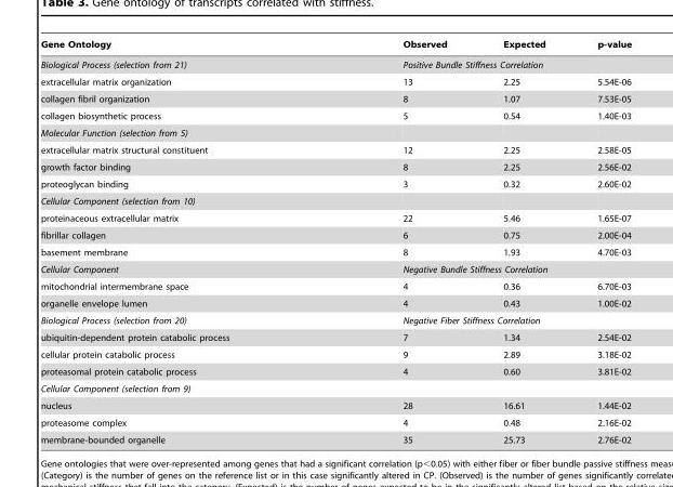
<table><thead><tr><td>Gene Ontology</td><td>Observed</td><td>Expected</td><td>p-value</td></tr></thead><tbody><tr><td>Biological Process (selection from 21)</td><td colspan="3">Positive Bundle Stiffness Correlation</td></tr><tr><td>extracellular matrix organization</td><td>13</td><td>2.25</td><td>5.54E-06</td></tr><tr><td>collagen fibril organization</td><td>8</td><td>1.07</td><td>7.53E-05</td></tr><tr><td>collagen biosynthetic process</td><td>5</td><td>0.54</td><td>1.40E-03</td></tr><tr><td colspan="4">Molecular Function (selection from 5)</td></tr><tr><td>extracellular matrix structural constituent</td><td>12</td><td>2.25</td><td>2.58E-05</td></tr><tr><td>growth factor binding</td><td>8</td><td>2.25</td><td>2.56E-02</td></tr><tr><td>proteoglycan binding</td><td>3</td><td>0.32</td><td>2.60E-02</td></tr><tr><td colspan="4">Cellular Component (selection from 10)</td></tr><tr><td>proteinaceous extracellular matrix</td><td>22</td><td>5.46</td><td>1.65E-07</td></tr><tr><td>fibrillar collagen</td><td>6</td><td>0.75</td><td>2.00E-04</td></tr><tr><td>basement membrane</td><td>8</td><td>1.93</td><td>4.70E-03</td></tr><tr><td>Cellular Component</td><td colspan="3">Negative Bundle Stiffness Correlation</td></tr><tr><td>mitochondrial intermembrane space</td><td>4</td><td>0.36</td><td>6.70E-03</td></tr><tr><td>organelle envelope lumen</td><td>4</td><td>0.43</td><td>1.00E-02</td></tr><tr><td>Biological Process (selection from 20)</td><td colspan="3">Negative Fiber Stiffness Correlation</td></tr><tr><td>ubiquitin-dependent protein catabolic process</td><td>7</td><td>1.34</td><td>2.54E-02</td></tr><tr><td>cellular protein catabolic process</td><td>9</td><td>2.89</td><td>3.18E-02</td></tr><tr><td>proteasomal protein catabolic process</td><td>4</td><td>0.60</td><td>3.81E-02</td></tr><tr><td colspan="4">Cellular Component (selection from 9)</td></tr><tr><td>nucleus</td><td>28</td><td>16.61</td><td>1.44E-02</td></tr><tr><td>proteasome complex</td><td>4</td><td>0.48</td><td>2.16E-02</td></tr><tr><td>membrane-bounded organelle</td><td>35</td><td>25.73</td><td>2.76E-02</td></tr></tbody></table>